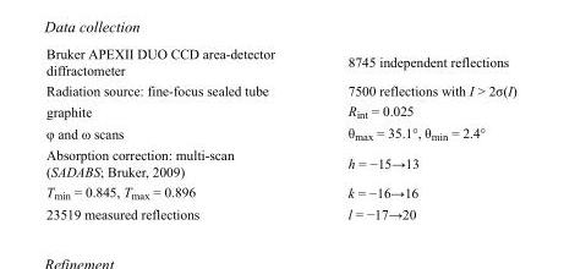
<table><tbody><tr><td>Bruker APEXII DUO CCD area-detector diffractometer</td><td>8745 independent reflections</td></tr><tr><td>Radiation source: fine-focus sealed tube</td><td>7500 reflections with I &gt; 2σ(I)</td></tr><tr><td>graphite</td><td>R<sub>int</sub> = 0.025</td></tr><tr><td>φ and ω scans</td><td>θ<sub>max</sub> = 35.1°, θ<sub>min</sub> = 2.4°</td></tr><tr><td>Absorption correction: multi-scan (SADABS; Bruker, 2009)</td><td>h = −15→13</td></tr><tr><td>T<sub>min</sub> = 0.845, T<sub>max</sub> = 0.896</td><td>k = −16→16</td></tr><tr><td>23519 measured reflections</td><td>l = −17→20</td></tr></tbody></table>